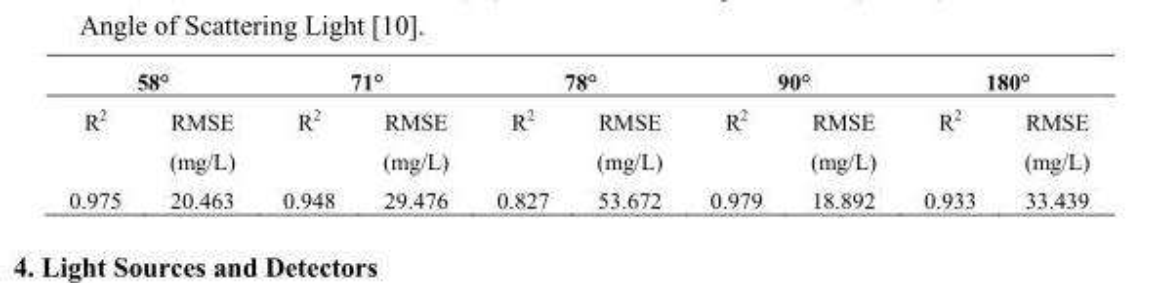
<table><thead><tr><td colspan="2">58°</td><td colspan="2">71°</td><td colspan="2">78°</td><td colspan="2">90°</td><td colspan="2">180°</td></tr><tr><td>R<sup>2</sup></td><td>RMSE (mg/L)</td><td>R<sup>2</sup></td><td>RMSE (mg/L)</td><td>R<sup>2</sup></td><td>RMSE (mg/L)</td><td>R<sup>2</sup></td><td>RMSE (mg/L)</td><td>R<sup>2</sup></td><td>RMSE (mg/L)</td></tr></thead><tbody><tr><td>0.975</td><td>20.463</td><td>0.948</td><td>29.476</td><td>0.827</td><td>53.672</td><td>0.979</td><td>18.892</td><td>0.933</td><td>33.439</td></tr></tbody></table>